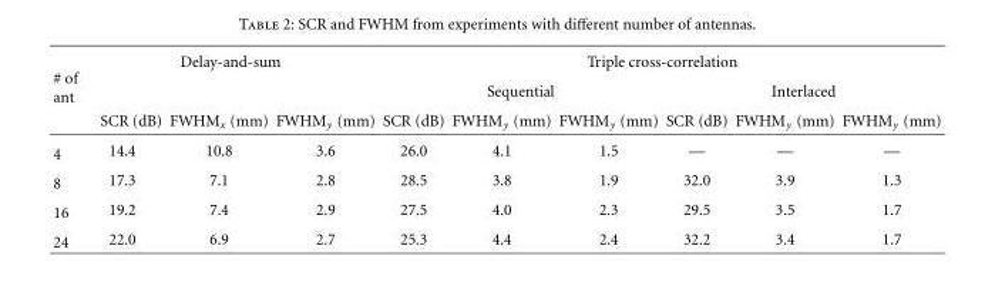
<table><thead><tr><td rowspan="3"># of ant</td><td colspan="3">Delay-and-sum</td><td colspan="6">Triple cross-correlation</td></tr><tr><td rowspan="2">SCR (dB)</td><td rowspan="2">FWHM<sub>x</sub> (mm)</td><td rowspan="2">FWHM<sub>y</sub> (mm)</td><td colspan="3">Sequential</td><td colspan="3">Interlaced</td></tr><tr><td>SCR (dB)</td><td>FWHM<sub>y</sub> (mm)</td><td>FWHM<sub>y</sub> (mm)</td><td>SCR (dB)</td><td>FWHM<sub>y</sub> (mm)</td><td>FWHM<sub>y</sub> (mm)</td></tr></thead><tbody><tr><td>4</td><td>14.4</td><td>10.8</td><td>3.6</td><td>26.0</td><td>4.1</td><td>1.5</td><td>—</td><td>—</td><td>—</td></tr><tr><td>8</td><td>17.3</td><td>7.1</td><td>2.8</td><td>28.5</td><td>3.8</td><td>1.9</td><td>32.0</td><td>3.9</td><td>1.3</td></tr><tr><td>16</td><td>19.2</td><td>7.4</td><td>2.9</td><td>27.5</td><td>4.0</td><td>2.3</td><td>29.5</td><td>3.5</td><td>1.7</td></tr><tr><td>24</td><td>22.0</td><td>6.9</td><td>2.7</td><td>25.3</td><td>4.4</td><td>2.4</td><td>32.2</td><td>3.4</td><td>1.7</td></tr></tbody></table>